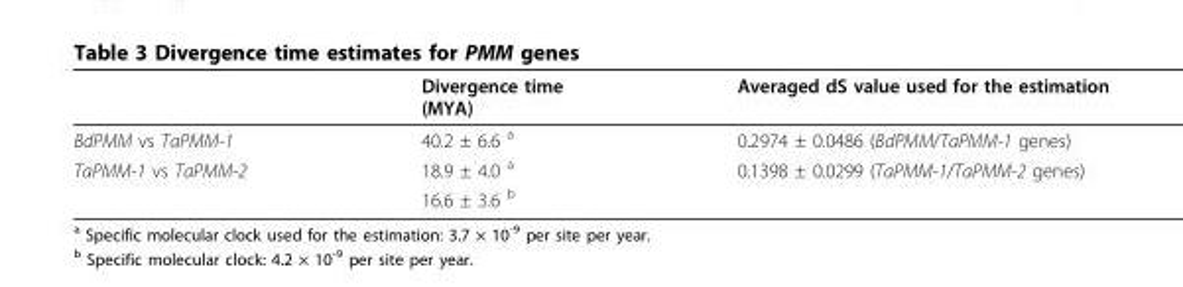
<table><thead><tr><td></td><td>Divergence time (MYA)</td><td>Averaged dS value used for the estimation</td></tr></thead><tbody><tr><td>BdPMM vs TaPMM-1</td><td>40.2 ± 6.6 <sup>a</sup></td><td>0.2974 ± 0.0486 (BdPMM/TaPMM-1 genes)</td></tr><tr><td rowspan="2">TaPMM-1 vs TaPMM-2</td><td>18.9 ± 4.0 <sup>a</sup></td><td>0.1398 ± 0.0299 (TaPMM-1/TaPMM-2 genes)</td></tr><tr><td>16.6 ± 3.6 <sup>b</sup></td><td></td></tr></tbody></table>